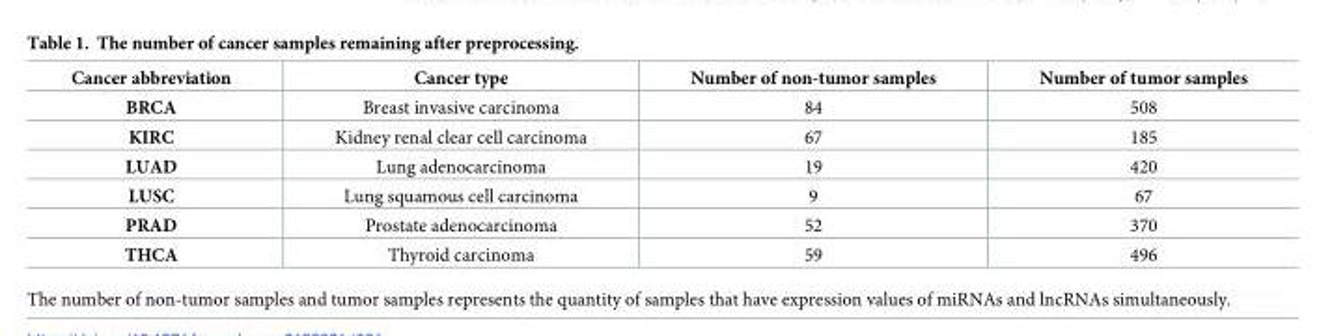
<table><thead><tr><td>Cancer abbreviation</td><td>Cancer type</td><td>Number of non-tumor samples</td><td>Number of tumor samples</td></tr></thead><tbody><tr><td>BRCA</td><td>Breast invasive carcinoma</td><td>84</td><td>508</td></tr><tr><td>KIRC</td><td>Kidney renal clear cell carcinoma</td><td>67</td><td>185</td></tr><tr><td>LUAD</td><td>Lung adenocarcinoma</td><td>19</td><td>420</td></tr><tr><td>LUSC</td><td>Lung squamous cell carcinoma</td><td>9</td><td>67</td></tr><tr><td>PRAD</td><td>Prostate adenocarcinoma</td><td>52</td><td>370</td></tr><tr><td>THCA</td><td>Thyroid carcinoma</td><td>59</td><td>496</td></tr></tbody></table>